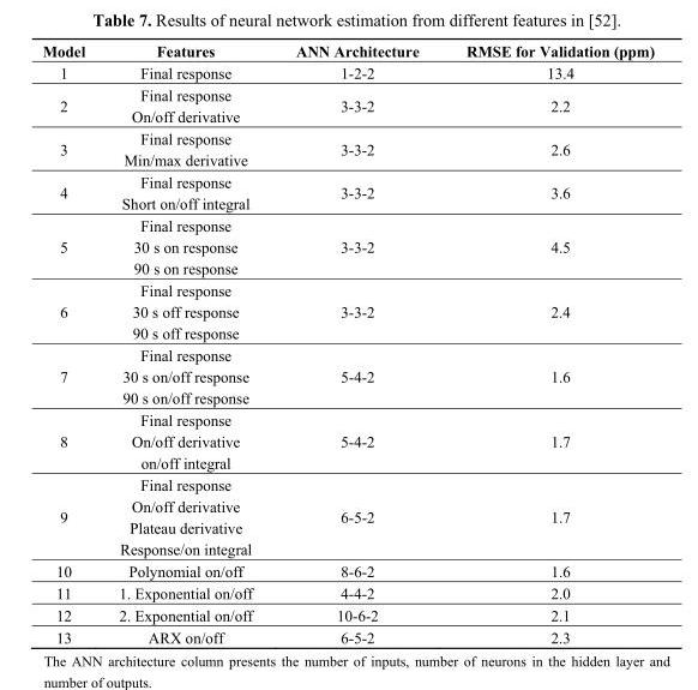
<table><thead><tr><td>Model</td><td>Features</td><td>ANN Architecture</td><td>RMSE for Validation (ppm)</td></tr></thead><tbody><tr><td>1</td><td>Final response</td><td>1-2-2</td><td>13.4</td></tr><tr><td rowspan="2">2</td><td>Final response</td><td rowspan="2">3-3-2</td><td rowspan="2">2.2</td></tr><tr><td>On/off derivative</td></tr><tr><td rowspan="2">3</td><td>Final response</td><td rowspan="2">3-3-2</td><td rowspan="2">2.6</td></tr><tr><td>Min/max derivative</td></tr><tr><td rowspan="2">4</td><td>Final response</td><td rowspan="2">3-3-2</td><td rowspan="2">3.6</td></tr><tr><td>Short on/off integral</td></tr><tr><td rowspan="3">5</td><td>Final response</td><td rowspan="3">3-3-2</td><td rowspan="3">4.5</td></tr><tr><td>30 s on response</td></tr><tr><td>90 s on response</td></tr><tr><td rowspan="3">6</td><td>Final response</td><td rowspan="3">3-3-2</td><td rowspan="3">2.4</td></tr><tr><td>30 s off response</td></tr><tr><td>90 s off response</td></tr><tr><td rowspan="3">7</td><td>Final response</td><td rowspan="3">5-4-2</td><td rowspan="3">1.6</td></tr><tr><td>30 s on/off response</td></tr><tr><td>90 s on/off response</td></tr><tr><td rowspan="3">8</td><td>Final response</td><td rowspan="3">5-4-2</td><td rowspan="3">1.7</td></tr><tr><td>On/off derivative</td></tr><tr><td>on/off integral</td></tr><tr><td rowspan="4">9</td><td>Final response</td><td rowspan="4">6-5-2</td><td rowspan="4">1.7</td></tr><tr><td>On/off derivative</td></tr><tr><td>Plateau derivative</td></tr><tr><td>Response/on integral</td></tr><tr><td>10</td><td>Polynomial on/off</td><td>8-6-2</td><td>1.6</td></tr><tr><td>11</td><td>1. Exponential on/off</td><td>4-4-2</td><td>2.0</td></tr><tr><td>12</td><td>2. Exponential on/off</td><td>10-6-2</td><td>2.1</td></tr><tr><td>13</td><td>ARX on/off</td><td>6-5-2</td><td>2.3</td></tr></tbody></table>